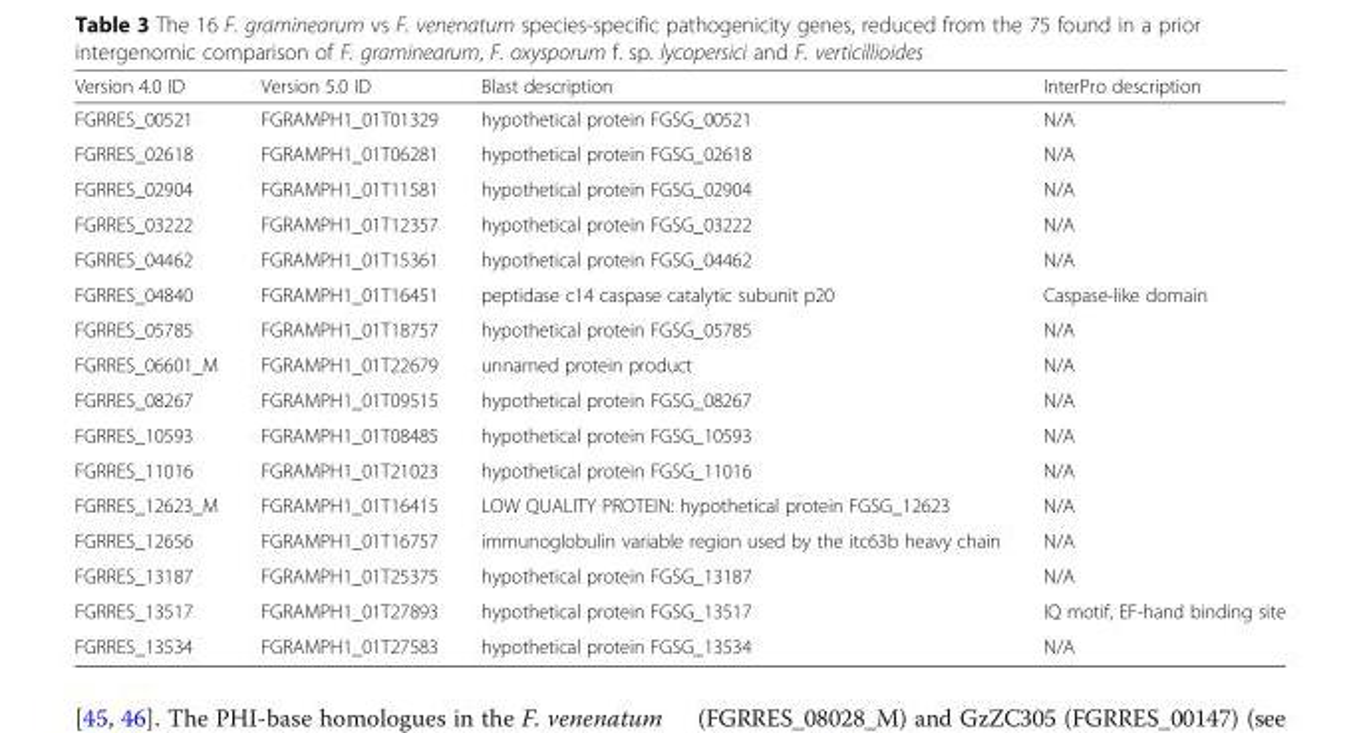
<table><thead><tr><td>Version 4.0 ID</td><td>Version 5.0 ID</td><td>Blast description</td><td>InterPro description</td></tr></thead><tbody><tr><td>FGRRES_00521</td><td>FGRAMPH1_01T01329</td><td>hypothetical protein FGSG_00521</td><td>N/A</td></tr><tr><td>FGRRES_02618</td><td>FGRAMPH1_01T06281</td><td>hypothetical protein FGSG_02618</td><td>N/A</td></tr><tr><td>FGRRES_02904</td><td>FGRAMPH1_01T11581</td><td>hypothetical protein FGSG_02904</td><td>N/A</td></tr><tr><td>FGRRES_03222</td><td>FGRAMPH1_01T12357</td><td>hypothetical protein FGSG_03222</td><td>N/A</td></tr><tr><td>FGRRES_04462</td><td>FGRAMPH1_01T15361</td><td>hypothetical protein FGSG_04462</td><td>N/A</td></tr><tr><td>FGRRES_04840</td><td>FGRAMPH1_01T16451</td><td>peptidase c14 caspase catalytic subunit p20</td><td>Caspase-like domain</td></tr><tr><td>FGRRES_05785</td><td>FGRAMPH1_01T18757</td><td>hypothetical protein FGSG_05785</td><td>N/A</td></tr><tr><td>FGRRES_06601_M</td><td>FGRAMPH1_01T22679</td><td>unnamed protein product</td><td>N/A</td></tr><tr><td>FGRRES_08267</td><td>FGRAMPH1_01T09515</td><td>hypothetical protein FGSG_08267</td><td>N/A</td></tr><tr><td>FGRRES_10593</td><td>FGRAMPH1_01T08485</td><td>hypothetical protein FGSG_10593</td><td>N/A</td></tr><tr><td>FGRRES_11016</td><td>FGRAMPH1_01T21023</td><td>hypothetical protein FGSG_11016</td><td>N/A</td></tr><tr><td>FGRRES_12623_M</td><td>FGRAMPH1_01T16415</td><td>LOW QUALITY PROTEIN: hypothetical protein FGSG_12623</td><td>N/A</td></tr><tr><td>FGRRES_12656</td><td>FGRAMPH1_01T16757</td><td>immunoglobulin variable region used by the itc63b heavy chain</td><td>N/A</td></tr><tr><td>FGRRES_13187</td><td>FGRAMPH1_01T25375</td><td>hypothetical protein FGSG_13187</td><td>N/A</td></tr><tr><td>FGRRES_13517</td><td>FGRAMPH1_01T27893</td><td>hypothetical protein FGSG_13517</td><td>IQ motif, EF-hand binding site</td></tr><tr><td>FGRRES_13534</td><td>FGRAMPH1_01T27583</td><td>hypothetical protein FGSG_13534</td><td>N/A</td></tr></tbody></table>